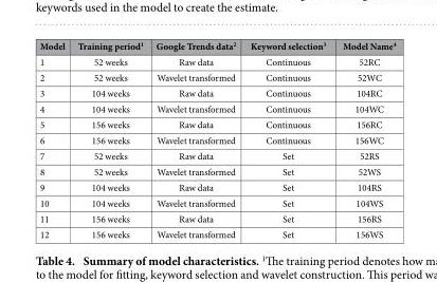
<table><thead><tr><td>Model</td><td>Training period<sup>1</sup></td><td>Google Trends data<sup>2</sup></td><td>Keyword selection<sup>3</sup></td><td>Model Name<sup>4</sup></td></tr></thead><tbody><tr><td>1</td><td>52 weeks</td><td>Raw data</td><td>Continuous</td><td>52RC</td></tr><tr><td>2</td><td>52 weeks</td><td>Wavelet transformed</td><td>Continuous</td><td>52WC</td></tr><tr><td>3</td><td>104 weeks</td><td>Raw data</td><td>Continuous</td><td>104RC</td></tr><tr><td>4</td><td>104 weeks</td><td>Wavelet transformed</td><td>Continuous</td><td>104WC</td></tr><tr><td>5</td><td>156 weeks</td><td>Raw data</td><td>Continuous</td><td>156RC</td></tr><tr><td>6</td><td>156 weeks</td><td>Wavelet transformed</td><td>Continuous</td><td>156WC</td></tr><tr><td>7</td><td>52 weeks</td><td>Raw data</td><td>Set</td><td>52RS</td></tr><tr><td>8</td><td>52 weeks</td><td>Wavelet transformed</td><td>Set</td><td>52WS</td></tr><tr><td>9</td><td>104 weeks</td><td>Raw data</td><td>Set</td><td>104RS</td></tr><tr><td>10</td><td>104 weeks</td><td>Wavelet transformed</td><td>Set</td><td>104WS</td></tr><tr><td>11</td><td>156 weeks</td><td>Raw data</td><td>Set</td><td>156RS</td></tr><tr><td>12</td><td>156 weeks</td><td>Wavelet transformed</td><td>Set</td><td>156WS</td></tr></tbody></table>